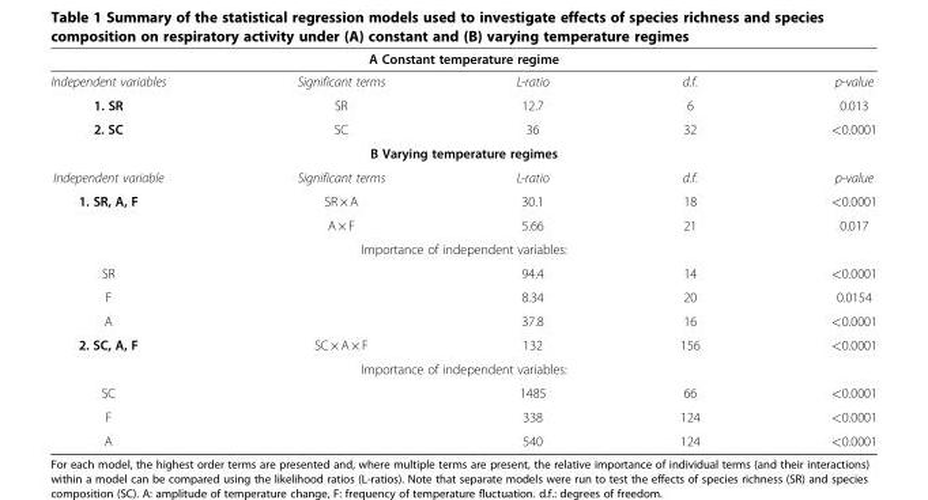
<table><thead><tr><td colspan="5">A Constant temperature regime</td></tr><tr><td>Independent variables</td><td>Significant terms</td><td>L-ratio</td><td>d.f.</td><td>p-value</td></tr></thead><tbody><tr><td>1. SR</td><td>SR</td><td>12.7</td><td>6</td><td>0.013</td></tr><tr><td>2. SC</td><td>SC</td><td>36</td><td>32</td><td>&lt;0.0001</td></tr><tr><td colspan="5">B Varying temperature regimes</td></tr><tr><td>Independent variable</td><td>Significant terms</td><td>L-ratio</td><td>d.f.</td><td>p-value</td></tr><tr><td rowspan="2">1. SR, A, F</td><td>SR × A</td><td>30.1</td><td>18</td><td>&lt;0.0001</td></tr><tr><td>A × F</td><td>5.66</td><td>21</td><td>0.017</td></tr><tr><td colspan="5">Importance of independent variables:</td></tr><tr><td>SR</td><td></td><td>94.4</td><td>14</td><td>&lt;0.0001</td></tr><tr><td>F</td><td></td><td>8.34</td><td>20</td><td>0.0154</td></tr><tr><td>A</td><td></td><td>37.8</td><td>16</td><td>&lt;0.0001</td></tr><tr><td>2. SC, A, F</td><td>SC × A × F</td><td>132</td><td>156</td><td>&lt;0.0001</td></tr><tr><td colspan="5">Importance of independent variables:</td></tr><tr><td>SC</td><td></td><td>1485</td><td>66</td><td>&lt;0.0001</td></tr><tr><td>F</td><td></td><td>338</td><td>124</td><td>&lt;0.0001</td></tr><tr><td>A</td><td></td><td>540</td><td>124</td><td>&lt;0.0001</td></tr></tbody></table>